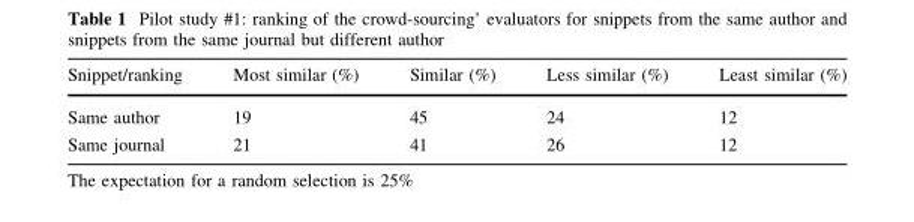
<table><thead><tr><td>Snippet/ranking</td><td>Most similar (%)</td><td>Similar (%)</td><td>Less similar (%)</td><td>Least similar (%)</td></tr></thead><tbody><tr><td>Same author</td><td>19</td><td>45</td><td>24</td><td>12</td></tr><tr><td>Same journal</td><td>21</td><td>41</td><td>26</td><td>12</td></tr></tbody></table>